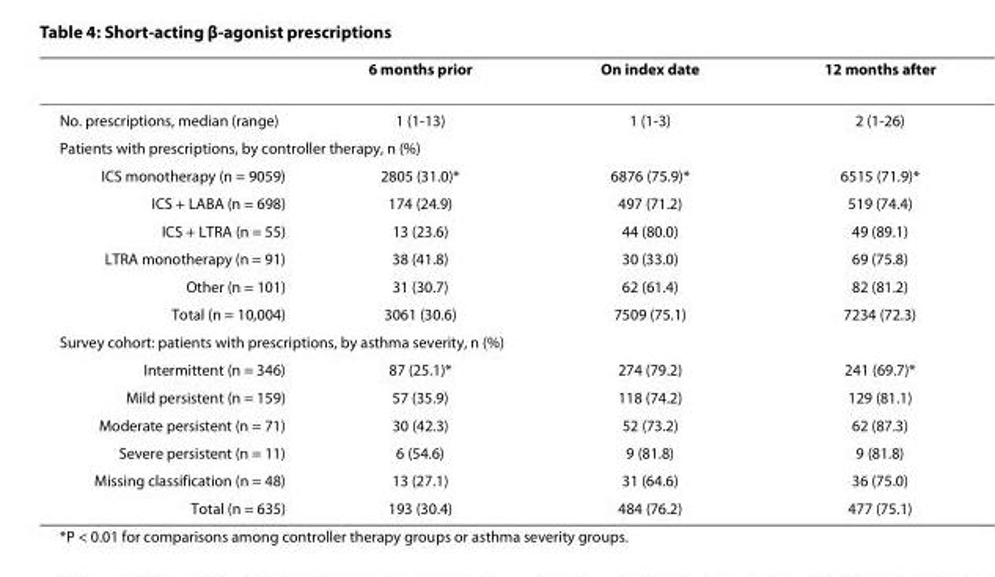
<table><thead><tr><td></td><td>6 months prior</td><td>On index date</td><td>12 months after</td></tr></thead><tbody><tr><td>No. prescriptions, median (range)</td><td>1 (1-13)</td><td>1 (1-3)</td><td>2 (1-26)</td></tr><tr><td colspan="4">Patients with prescriptions, by controller therapy, n (%)</td></tr><tr><td>ICS monotherapy (n = 9059)</td><td>2805 (31.0)*</td><td>6876 (75.9)*</td><td>6515 (71.9)*</td></tr><tr><td>ICS + LABA (n = 698)</td><td>174 (24.9)</td><td>497 (71.2)</td><td>519 (74.4)</td></tr><tr><td>ICS + LTRA (n = 55)</td><td>13 (23.6)</td><td>44 (80.0)</td><td>49 (89.1)</td></tr><tr><td>LTRA monotherapy (n = 91)</td><td>38 (41.8)</td><td>30 (33.0)</td><td>69 (75.8)</td></tr><tr><td>Other (n = 101)</td><td>31 (30.7)</td><td>62 (61.4)</td><td>82 (81.2)</td></tr><tr><td>Total (n = 10,004)</td><td>3061 (30.6)</td><td>7509 (75.1)</td><td>7234 (72.3)</td></tr><tr><td colspan="4">Survey cohort: patients with prescriptions, by asthma severity, n (%)</td></tr><tr><td>Intermittent (n = 346)</td><td>87 (25.1)*</td><td>274 (79.2)</td><td>241 (69.7)*</td></tr><tr><td>Mild persistent (n = 159)</td><td>57 (35.9)</td><td>118 (74.2)</td><td>129 (81.1)</td></tr><tr><td>Moderate persistent (n = 71)</td><td>30 (42.3)</td><td>52 (73.2)</td><td>62 (87.3)</td></tr><tr><td>Severe persistent (n = 11)</td><td>6 (54.6)</td><td>9 (81.8)</td><td>9 (81.8)</td></tr><tr><td>Missing classification (n = 48)</td><td>13 (27.1)</td><td>31 (64.6)</td><td>36 (75.0)</td></tr><tr><td>Total (n = 635)</td><td>193 (30.4)</td><td>484 (76.2)</td><td>477 (75.1)</td></tr></tbody></table>